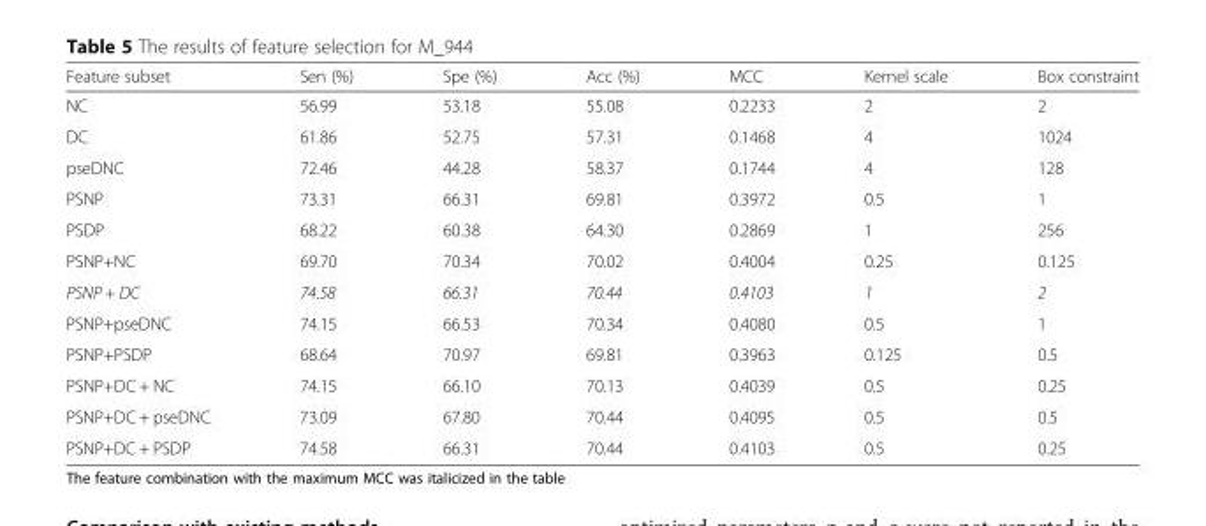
<table><thead><tr><td>Feature subset</td><td>Sen (%)</td><td>Spe (%)</td><td>Acc (%)</td><td>MCC</td><td>Kernel scale</td><td>Box constraint</td></tr></thead><tbody><tr><td>NC</td><td>56.99</td><td>53.18</td><td>55.08</td><td>0.2233</td><td>2</td><td>2</td></tr><tr><td>DC</td><td>61.86</td><td>52.75</td><td>57.31</td><td>0.1468</td><td>4</td><td>1024</td></tr><tr><td>pseDNC</td><td>72.46</td><td>44.28</td><td>58.37</td><td>0.1744</td><td>4</td><td>128</td></tr><tr><td>PSNP</td><td>73.31</td><td>66.31</td><td>69.81</td><td>0.3972</td><td>0.5</td><td>1</td></tr><tr><td>PSDP</td><td>68.22</td><td>60.38</td><td>64.30</td><td>0.2869</td><td>1</td><td>256</td></tr><tr><td>PSNP+NC</td><td>69.70</td><td>70.34</td><td>70.02</td><td>0.4004</td><td>0.25</td><td>0.125</td></tr><tr><td>PSNP + DC</td><td>74.58</td><td>66.31</td><td>70.44</td><td>0.4103</td><td>1</td><td>2</td></tr><tr><td>PSNP+pseDNC</td><td>74.15</td><td>66.53</td><td>70.34</td><td>0.4080</td><td>0.5</td><td>1</td></tr><tr><td>PSNP+PSDP</td><td>68.64</td><td>70.97</td><td>69.81</td><td>0.3963</td><td>0.125</td><td>0.5</td></tr><tr><td>PSNP+DC + NC</td><td>74.15</td><td>66.10</td><td>70.13</td><td>0.4039</td><td>0.5</td><td>0.25</td></tr><tr><td>PSNP+DC + pseDNC</td><td>73.09</td><td>67.80</td><td>70.44</td><td>0.4095</td><td>0.5</td><td>0.5</td></tr><tr><td>PSNP+DC + PSDP</td><td>74.58</td><td>66.31</td><td>70.44</td><td>0.4103</td><td>0.5</td><td>0.25</td></tr></tbody></table>